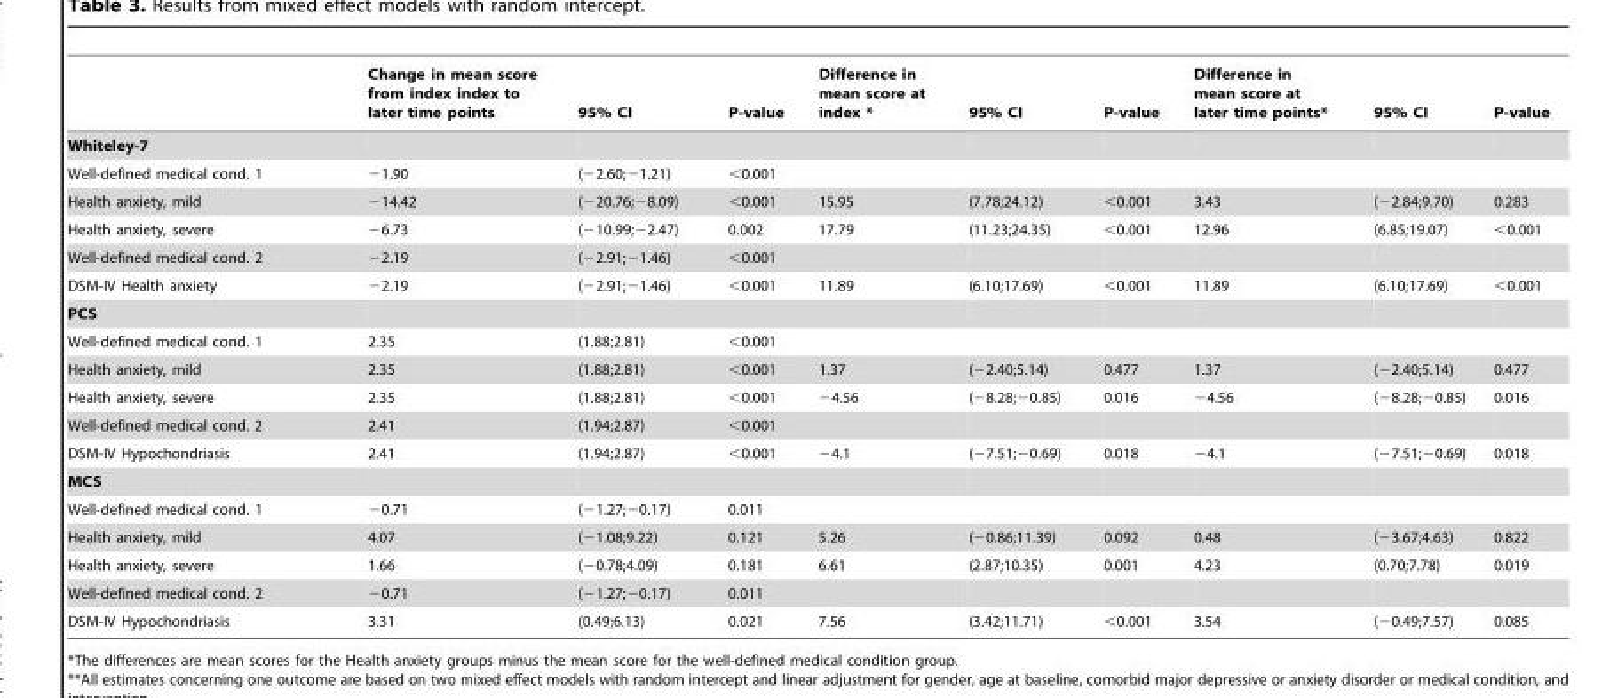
<table><thead><tr><td></td><td>Change in mean score from index index to later time points</td><td>95% CI</td><td>P-value</td><td>Difference in mean score at index *</td><td>95% CI</td><td>P-value</td><td>Difference in mean score at later time points*</td><td>95% CI</td><td>P-value</td></tr></thead><tbody><tr><td colspan="10">Whiteley-7</td></tr><tr><td>Well-defined medical cond. 1</td><td>−1.90</td><td>(−2.60;−1.21)</td><td>&lt;0.001</td><td></td><td></td><td></td><td></td><td></td><td></td></tr><tr><td>Health anxiety, mild</td><td>−14.42</td><td>(−20.76;−8.09)</td><td>&lt;0.001</td><td>15.95</td><td>(7.78;24.12)</td><td>&lt;0.001</td><td>3.43</td><td>(−2.84;9.70)</td><td>0.283</td></tr><tr><td>Health anxiety, severe</td><td>−6.73</td><td>(−10.99;−2.47)</td><td>0.002</td><td>17.79</td><td>(11.23;24.35)</td><td>&lt;0.001</td><td>12.96</td><td>(6.85;19.07)</td><td>&lt;0.001</td></tr><tr><td>Well-defined medical cond. 2</td><td>−2.19</td><td>(−2.91;−1.46)</td><td>&lt;0.001</td><td></td><td></td><td></td><td></td><td></td><td></td></tr><tr><td>DSM-IV Health anxiety</td><td>−2.19</td><td>(−2.91;−1.46)</td><td>&lt;0.001</td><td>11.89</td><td>(6.10;17.69)</td><td>&lt;0.001</td><td>11.89</td><td>(6.10;17.69)</td><td>&lt;0.001</td></tr><tr><td colspan="10">PCS</td></tr><tr><td>Well-defined medical cond. 1</td><td>2.35</td><td>(1.88;2.81)</td><td>&lt;0.001</td><td></td><td></td><td></td><td></td><td></td><td></td></tr><tr><td>Health anxiety, mild</td><td>2.35</td><td>(1.88;2.81)</td><td>&lt;0.001</td><td>1.37</td><td>(−2.40;5.14)</td><td>0.477</td><td>1.37</td><td>(−2.40;5.14)</td><td>0.477</td></tr><tr><td>Health anxiety, severe</td><td>2.35</td><td>(1.88;2.81)</td><td>&lt;0.001</td><td>−4.56</td><td>(−8.28;−0.85)</td><td>0.016</td><td>−4.56</td><td>(−8.28;−0.85)</td><td>0.016</td></tr><tr><td>Well-defined medical cond. 2</td><td>2.41</td><td>(1.94;2.87)</td><td>&lt;0.001</td><td></td><td></td><td></td><td></td><td></td><td></td></tr><tr><td>DSM-IV Hypochondriasis</td><td>2.41</td><td>(1.94;2.87)</td><td>&lt;0.001</td><td>−4.1</td><td>(−7.51;−0.69)</td><td>0.018</td><td>−4.1</td><td>(−7.51;−0.69)</td><td>0.018</td></tr><tr><td colspan="10">MCS</td></tr><tr><td>Well-defined medical cond. 1</td><td>−0.71</td><td>(−1.27;−0.17)</td><td>0.011</td><td></td><td></td><td></td><td></td><td></td><td></td></tr><tr><td>Health anxiety, mild</td><td>4.07</td><td>(−1.08;9.22)</td><td>0.121</td><td>5.26</td><td>(−0.86;11.39)</td><td>0.092</td><td>0.48</td><td>(−3.67;4.63)</td><td>0.822</td></tr><tr><td>Health anxiety, severe</td><td>1.66</td><td>(−0.78;4.09)</td><td>0.181</td><td>6.61</td><td>(2.87;10.35)</td><td>0.001</td><td>4.23</td><td>(0.70;7.78)</td><td>0.019</td></tr><tr><td>Well-defined medical cond. 2</td><td>−0.71</td><td>(−1.27;−0.17)</td><td>0.011</td><td></td><td></td><td></td><td></td><td></td><td></td></tr><tr><td>DSM-IV Hypochondriasis</td><td>3.31</td><td>(0.49;6.13)</td><td>0.021</td><td>7.56</td><td>(3.42;11.71)</td><td>&lt;0.001</td><td>3.54</td><td>(−0.49;7.57)</td><td>0.085</td></tr></tbody></table>